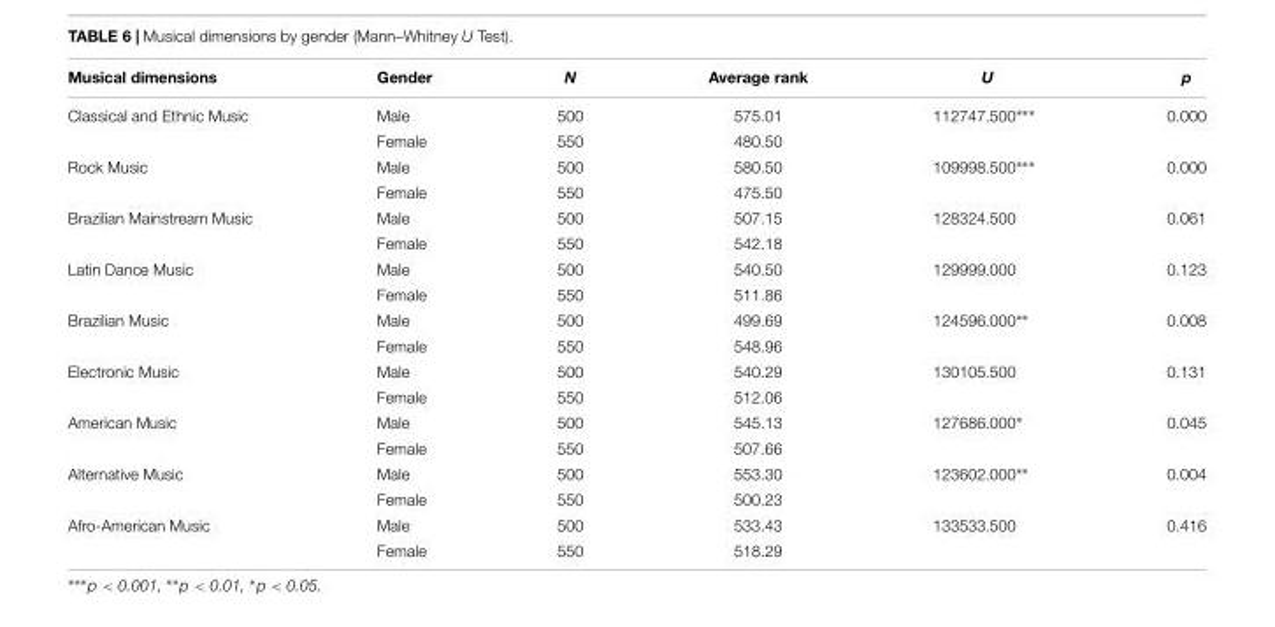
<table><thead><tr><td>Musical dimensions</td><td>Gender</td><td>N</td><td>Average rank</td><td>U</td><td>p</td></tr></thead><tbody><tr><td rowspan="2">Classical and Ethnic Music</td><td>Male</td><td>500</td><td>575.01</td><td>112747.500∗∗∗</td><td>0.000</td></tr><tr><td>Female</td><td>550</td><td>480.50</td><td></td><td></td></tr><tr><td rowspan="2">Rock Music</td><td>Male</td><td>500</td><td>580.50</td><td>109998.500∗∗∗</td><td>0.000</td></tr><tr><td>Female</td><td>550</td><td>475.50</td><td></td><td></td></tr><tr><td rowspan="2">Brazilian Mainstream Music</td><td>Male</td><td>500</td><td>507.15</td><td>128324.500</td><td>0.061</td></tr><tr><td>Female</td><td>550</td><td>542.18</td><td></td><td></td></tr><tr><td rowspan="2">Latin Dance Music</td><td>Male</td><td>500</td><td>540.50</td><td>129999.000</td><td>0.123</td></tr><tr><td>Female</td><td>550</td><td>511.86</td><td></td><td></td></tr><tr><td rowspan="2">Brazilian Music</td><td>Male</td><td>500</td><td>499.69</td><td>124596.000∗∗</td><td>0.008</td></tr><tr><td>Female</td><td>550</td><td>548.96</td><td></td><td></td></tr><tr><td rowspan="2">Electronic Music</td><td>Male</td><td>500</td><td>540.29</td><td>130105.500</td><td>0.131</td></tr><tr><td>Female</td><td>550</td><td>512.06</td><td></td><td></td></tr><tr><td rowspan="2">American Music</td><td>Male</td><td>500</td><td>545.13</td><td>127686.000∗</td><td>0.045</td></tr><tr><td>Female</td><td>550</td><td>507.66</td><td></td><td></td></tr><tr><td rowspan="2">Alternative Music</td><td>Male</td><td>500</td><td>553.30</td><td>123602.000∗∗</td><td>0.004</td></tr><tr><td>Female</td><td>550</td><td>500.23</td><td></td><td></td></tr><tr><td rowspan="2">Afro-American Music</td><td>Male</td><td>500</td><td>533.43</td><td>133533.500</td><td>0.416</td></tr><tr><td>Female</td><td>550</td><td>518.29</td><td></td><td></td></tr></tbody></table>